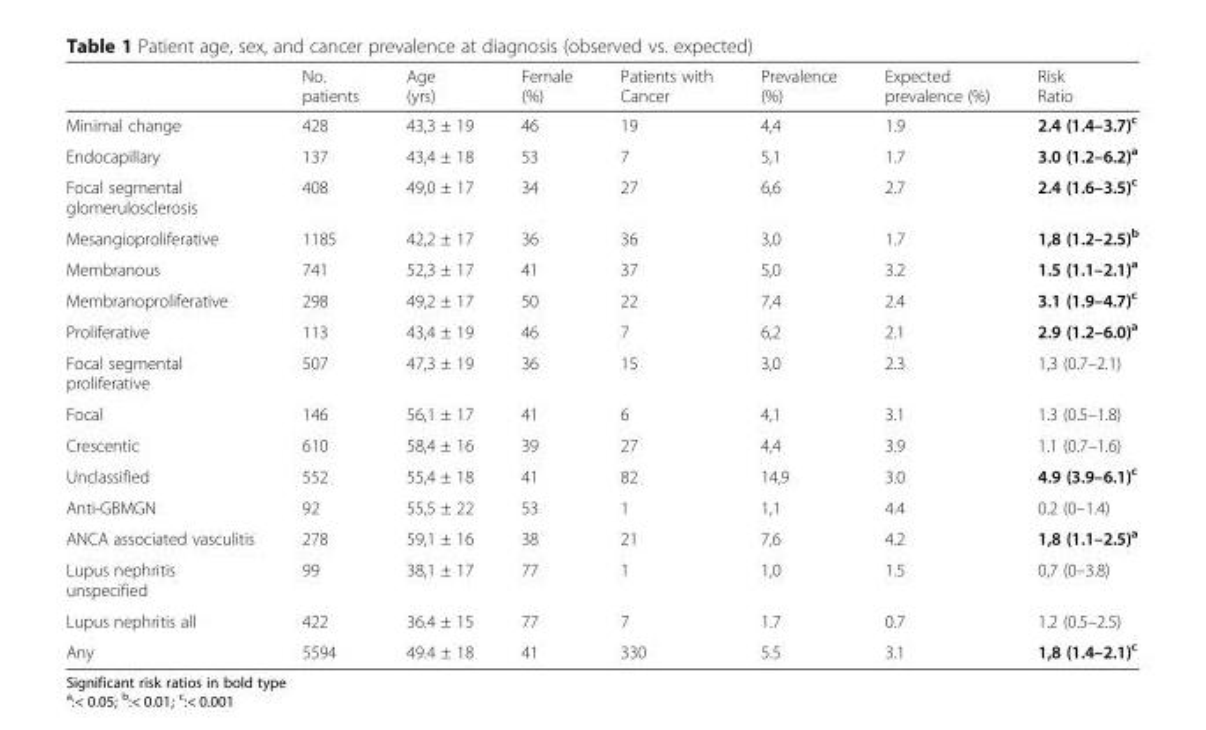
<table><thead><tr><td></td><td>No. patients</td><td>Age (yrs)</td><td>Female (%)</td><td>Patients with Cancer</td><td>Prevalence (%)</td><td>Expected prevalence (%)</td><td>Risk Ratio</td></tr></thead><tbody><tr><td>Minimal change</td><td>428</td><td>43,3 ± 19</td><td>46</td><td>19</td><td>4,4</td><td>1.9</td><td>2.4 (1.4–3.7)<sup>c</sup></td></tr><tr><td>Endocapillary</td><td>137</td><td>43,4 ± 18</td><td>53</td><td>7</td><td>5,1</td><td>1.7</td><td>3.0 (1.2–6.2)<sup>a</sup></td></tr><tr><td>Focal segmental glomerulosclerosis</td><td>408</td><td>49,0 ± 17</td><td>34</td><td>27</td><td>6,6</td><td>2.7</td><td>2.4 (1.6–3.5)<sup>c</sup></td></tr><tr><td>Mesangioproliferative</td><td>1185</td><td>42,2 ± 17</td><td>36</td><td>36</td><td>3,0</td><td>1.7</td><td>1,8 (1.2–2.5)<sup>b</sup></td></tr><tr><td>Membranous</td><td>741</td><td>52,3 ± 17</td><td>41</td><td>37</td><td>5,0</td><td>3.2</td><td>1.5 (1.1–2.1)<sup>a</sup></td></tr><tr><td>Membranoproliferative</td><td>298</td><td>49,2 ± 17</td><td>50</td><td>22</td><td>7,4</td><td>2.4</td><td>3.1 (1.9–4.7)<sup>c</sup></td></tr><tr><td>Proliferative</td><td>113</td><td>43,4 ± 19</td><td>46</td><td>7</td><td>6,2</td><td>2.1</td><td>2.9 (1.2–6.0)<sup>a</sup></td></tr><tr><td>Focal segmental proliferative</td><td>507</td><td>47,3 ± 19</td><td>36</td><td>15</td><td>3,0</td><td>2.3</td><td>1,3 (0.7–2.1)</td></tr><tr><td>Focal</td><td>146</td><td>56,1 ± 17</td><td>41</td><td>6</td><td>4,1</td><td>3.1</td><td>1.3 (0.5–1.8)</td></tr><tr><td>Crescentic</td><td>610</td><td>58,4 ± 16</td><td>39</td><td>27</td><td>4,4</td><td>3.9</td><td>1.1 (0.7–1.6)</td></tr><tr><td>Unclassified</td><td>552</td><td>55,4 ± 18</td><td>41</td><td>82</td><td>14,9</td><td>3.0</td><td>4.9 (3.9–6.1)<sup>c</sup></td></tr><tr><td>Anti-GBMGN</td><td>92</td><td>55,5 ± 22</td><td>53</td><td>1</td><td>1,1</td><td>4.4</td><td>0.2 (0–1.4)</td></tr><tr><td>ANCA associated vasculitis</td><td>278</td><td>59,1 ± 16</td><td>38</td><td>21</td><td>7,6</td><td>4.2</td><td>1,8 (1.1–2.5)<sup>a</sup></td></tr><tr><td>Lupus nephritis unspecified</td><td>99</td><td>38,1 ± 17</td><td>77</td><td>1</td><td>1,0</td><td>1.5</td><td>0,7 (0–3.8)</td></tr><tr><td>Lupus nephritis all</td><td>422</td><td>36.4 ± 15</td><td>77</td><td>7</td><td>1.7</td><td>0.7</td><td>1.2 (0.5–2.5)</td></tr><tr><td>Any</td><td>5594</td><td>49.4 ± 18</td><td>41</td><td>330</td><td>5.5</td><td>3.1</td><td>1,8 (1.4–2.1)<sup>c</sup></td></tr></tbody></table>